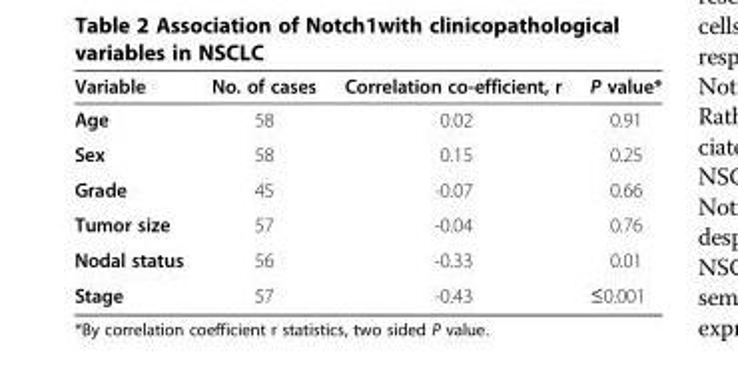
<table><thead><tr><td>Variable</td><td>No. of cases</td><td>Correlation co-efficient, r</td><td>P value*</td></tr></thead><tbody><tr><td>Age</td><td>58</td><td>0.02</td><td>0.91</td></tr><tr><td>Sex</td><td>58</td><td>0.15</td><td>0.25</td></tr><tr><td>Grade</td><td>45</td><td>-0.07</td><td>0.66</td></tr><tr><td>Tumor size</td><td>57</td><td>-0.04</td><td>0.76</td></tr><tr><td>Nodal status</td><td>56</td><td>-0.33</td><td>0.01</td></tr><tr><td>Stage</td><td>57</td><td>-0.43</td><td>≤0.001</td></tr></tbody></table>